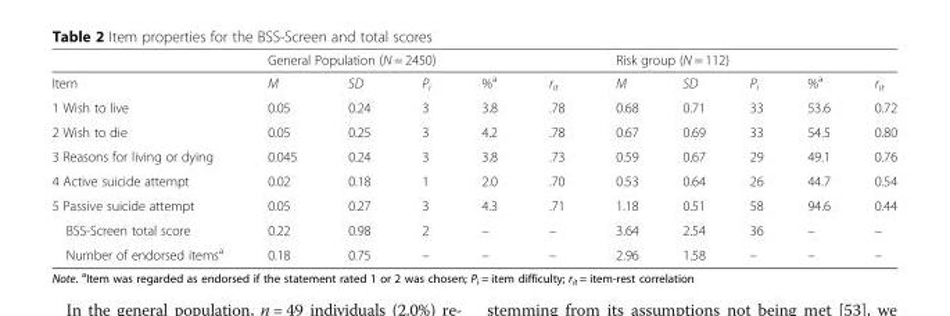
<table><thead><tr><td rowspan="2">Item</td><td colspan="5">General Population (N = 2450)</td><td colspan="5">Risk group (N = 112)</td></tr><tr><td>M</td><td>SD</td><td>P<sub>i</sub></td><td>%<sup>a</sup></td><td>r<sub>it</sub></td><td>M</td><td>SD</td><td>P<sub>i</sub></td><td>%<sup>a</sup></td><td>r<sub>it</sub></td></tr></thead><tbody><tr><td>1 Wish to live</td><td>0.05</td><td>0.24</td><td>3</td><td>3.8</td><td>.78</td><td>0.68</td><td>0.71</td><td>33</td><td>53.6</td><td>0.72</td></tr><tr><td>2 Wish to die</td><td>0.05</td><td>0.25</td><td>3</td><td>4.2</td><td>.78</td><td>0.67</td><td>0.69</td><td>33</td><td>54.5</td><td>0.80</td></tr><tr><td>3 Reasons for living or dying</td><td>0.045</td><td>0.24</td><td>3</td><td>3.8</td><td>.73</td><td>0.59</td><td>0.67</td><td>29</td><td>49.1</td><td>0.76</td></tr><tr><td>4 Active suicide attempt</td><td>0.02</td><td>0.18</td><td>1</td><td>2.0</td><td>.70</td><td>0.53</td><td>0.64</td><td>26</td><td>44.7</td><td>0.54</td></tr><tr><td>5 Passive suicide attempt</td><td>0.05</td><td>0.27</td><td>3</td><td>4.3</td><td>.71</td><td>1.18</td><td>0.51</td><td>58</td><td>94.6</td><td>0.44</td></tr><tr><td>BSS-Screen total score</td><td>0.22</td><td>0.98</td><td>2</td><td>–</td><td>–</td><td>3.64</td><td>2.54</td><td>36</td><td>–</td><td>–</td></tr><tr><td>Number of endorsed items<sup>a</sup></td><td>0.18</td><td>0.75</td><td>–</td><td>–</td><td>–</td><td>2.96</td><td>1.58</td><td>–</td><td>–</td><td>–</td></tr></tbody></table>